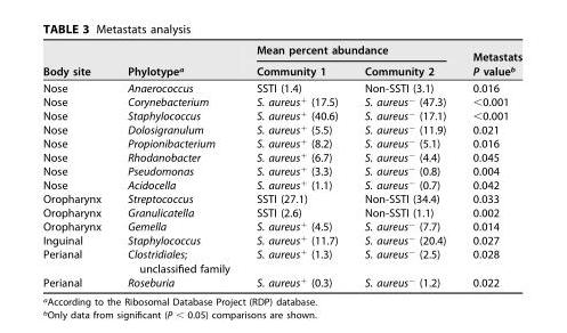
<table><thead><tr><td rowspan="2">Body site</td><td rowspan="2">Phylotype<sup>a</sup></td><td colspan="2">Mean percent abundance</td><td rowspan="2">Metastats P value<sup>b</sup></td></tr><tr><td>Community 1</td><td>Community 2</td></tr></thead><tbody><tr><td>Nose</td><td>Anaerococcus</td><td>SSTI (1.4)</td><td>Non-SSTI (3.1)</td><td>0.016</td></tr><tr><td>Nose</td><td>Corynebacterium</td><td>S. aureus<sup>+</sup> (17.5)</td><td>S. aureus<sup>−</sup> (47.3)</td><td>&lt;0.001</td></tr><tr><td>Nose</td><td>Staphylococcus</td><td>S. aureus<sup>+</sup> (40.6)</td><td>S. aureus<sup>−</sup> (17.1)</td><td>&lt;0.001</td></tr><tr><td>Nose</td><td>Dolosigranulum</td><td>S. aureus<sup>+</sup> (5.5)</td><td>S. aureus<sup>−</sup> (11.9)</td><td>0.021</td></tr><tr><td>Nose</td><td>Propionibacterium</td><td>S. aureus<sup>+</sup> (8.2)</td><td>S. aureus<sup>−</sup> (5.1)</td><td>0.016</td></tr><tr><td>Nose</td><td>Rhodanobacter</td><td>S. aureus<sup>+</sup> (6.7)</td><td>S. aureus<sup>−</sup> (4.4)</td><td>0.045</td></tr><tr><td>Nose</td><td>Pseudomonas</td><td>S. aureus<sup>+</sup> (3.3)</td><td>S. aureus<sup>−</sup> (0.8)</td><td>0.004</td></tr><tr><td>Nose</td><td>Acidocella</td><td>S. aureus<sup>+</sup> (1.1)</td><td>S. aureus<sup>−</sup> (0.7)</td><td>0.042</td></tr><tr><td>Oropharynx</td><td>Streptococcus</td><td>SSTI (27.1)</td><td>Non-SSTI (34.4)</td><td>0.033</td></tr><tr><td>Oropharynx</td><td>Granulicatella</td><td>SSTI (2.6)</td><td>Non-SSTI (1.1)</td><td>0.002</td></tr><tr><td>Oropharynx</td><td>Gemella</td><td>S. aureus<sup>+</sup> (4.5)</td><td>S. aureus<sup>−</sup> (7.7)</td><td>0.014</td></tr><tr><td>Inguinal</td><td>Staphylococcus</td><td>S. aureus<sup>+</sup> (11.7)</td><td>S. aureus<sup>−</sup> (20.4)</td><td>0.027</td></tr><tr><td>Perianal</td><td>Clostridiales; unclassified family</td><td>S. aureus<sup>+</sup> (1.3)</td><td>S. aureus<sup>−</sup> (2.5)</td><td>0.028</td></tr><tr><td>Perianal</td><td>Roseburia</td><td>S. aureus<sup>+</sup> (0.3)</td><td>S. aureus<sup>−</sup> (1.2)</td><td>0.022</td></tr></tbody></table>